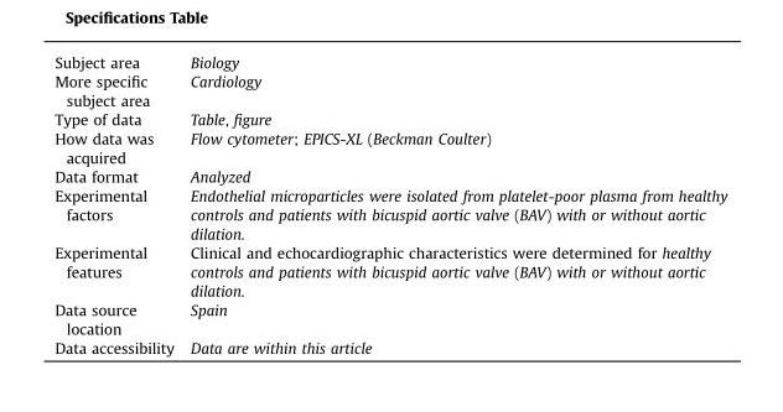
<table><tbody><tr><td>Subject area</td><td>Biology</td></tr><tr><td>More specific subject area</td><td>Cardiology</td></tr><tr><td>Type of data</td><td>Table, figure</td></tr><tr><td>How data was acquired</td><td>Flow cytometer; EPICS-XL (Beckman Coulter)</td></tr><tr><td>Data format</td><td>Analyzed</td></tr><tr><td>Experimental factors</td><td>Endothelial microparticles were isolated from platelet-poor plasma from healthy controls and patients with bicuspid aortic valve (BAV) with or without aortic dilation.</td></tr><tr><td>Experimental features</td><td>Clinical and echocardiographic characteristics were determined for healthy controls and patients with bicuspid aortic valve (BAV) with or without aortic dilation.</td></tr><tr><td>Data source location</td><td>Spain</td></tr><tr><td>Data accessibility</td><td>Data are within this article</td></tr></tbody></table>